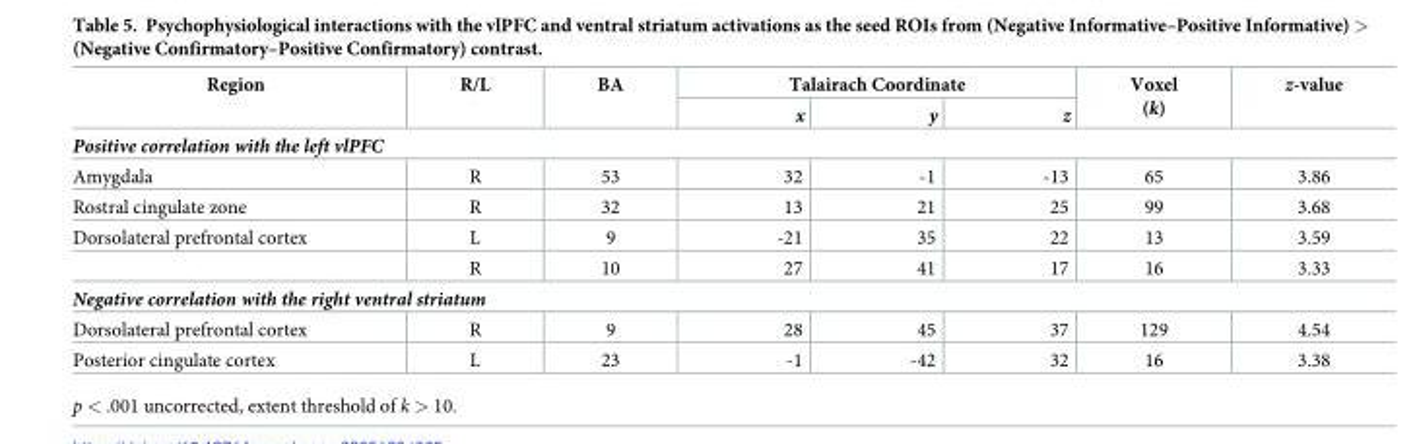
<table><thead><tr><td rowspan="2">Region</td><td rowspan="2">R/L</td><td rowspan="2">BA</td><td colspan="3">Talairach Coordinate</td><td rowspan="2">Voxel (k)</td><td rowspan="2">z-value</td></tr><tr><td>x</td><td>y</td><td>z</td></tr></thead><tbody><tr><td colspan="8">Positive correlation with the left vlPFC</td></tr><tr><td>Amygdala</td><td>R</td><td>53</td><td>32</td><td>-1</td><td>-13</td><td>65</td><td>3.86</td></tr><tr><td>Rostral cingulate zone</td><td>R</td><td>32</td><td>13</td><td>21</td><td>25</td><td>99</td><td>3.68</td></tr><tr><td rowspan="2">Dorsolateral prefrontal cortex</td><td>L</td><td>9</td><td>-21</td><td>35</td><td>22</td><td>13</td><td>3.59</td></tr><tr><td>R</td><td>10</td><td>27</td><td>41</td><td>17</td><td>16</td><td>3.33</td></tr><tr><td colspan="8">Negative correlation with the right ventral striatum</td></tr><tr><td>Dorsolateral prefrontal cortex</td><td>R</td><td>9</td><td>28</td><td>45</td><td>37</td><td>129</td><td>4.54</td></tr><tr><td>Posterior cingulate cortex</td><td>L</td><td>23</td><td>-1</td><td>-42</td><td>32</td><td>16</td><td>3.38</td></tr></tbody></table>